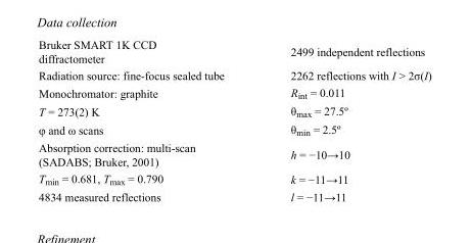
<table><tbody><tr><td>Bruker SMART 1K CCD diffractometer</td><td>2499 independent reflections</td></tr><tr><td>Radiation source: fine-focus sealed tube</td><td>2262 reflections with I &gt; 2σ(I)</td></tr><tr><td>Monochromator: graphite</td><td>R<sub>int</sub> = 0.011</td></tr><tr><td>T = 273(2) K</td><td>θ<sub>max</sub> = 27.5º</td></tr><tr><td>φ and ω scans</td><td>θ<sub>min</sub> = 2.5º</td></tr><tr><td>Absorption correction: multi-scan (SADABS; Bruker, 2001)</td><td>h = −10→10</td></tr><tr><td>T<sub>min</sub> = 0.681, T<sub>max</sub> = 0.790</td><td>k = −11→11</td></tr><tr><td>4834 measured reflections</td><td>l = −11→11</td></tr></tbody></table>